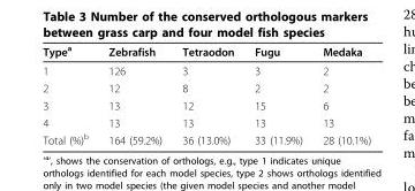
<table><thead><tr><td>Type<sup>a</sup></td><td>Zebrafish</td><td>Tetraodon</td><td>Fugu</td><td>Medaka</td></tr></thead><tbody><tr><td>1</td><td>126</td><td>3</td><td>3</td><td>2</td></tr><tr><td>2</td><td>12</td><td>8</td><td>2</td><td>2</td></tr><tr><td>3</td><td>13</td><td>12</td><td>15</td><td>6</td></tr><tr><td>4</td><td>13</td><td>13</td><td>13</td><td>13</td></tr><tr><td>Total (%)<sup>b</sup></td><td>164 (59.2%)</td><td>36 (13.0%)</td><td>33 (11.9%)</td><td>28 (10.1%)</td></tr></tbody></table>